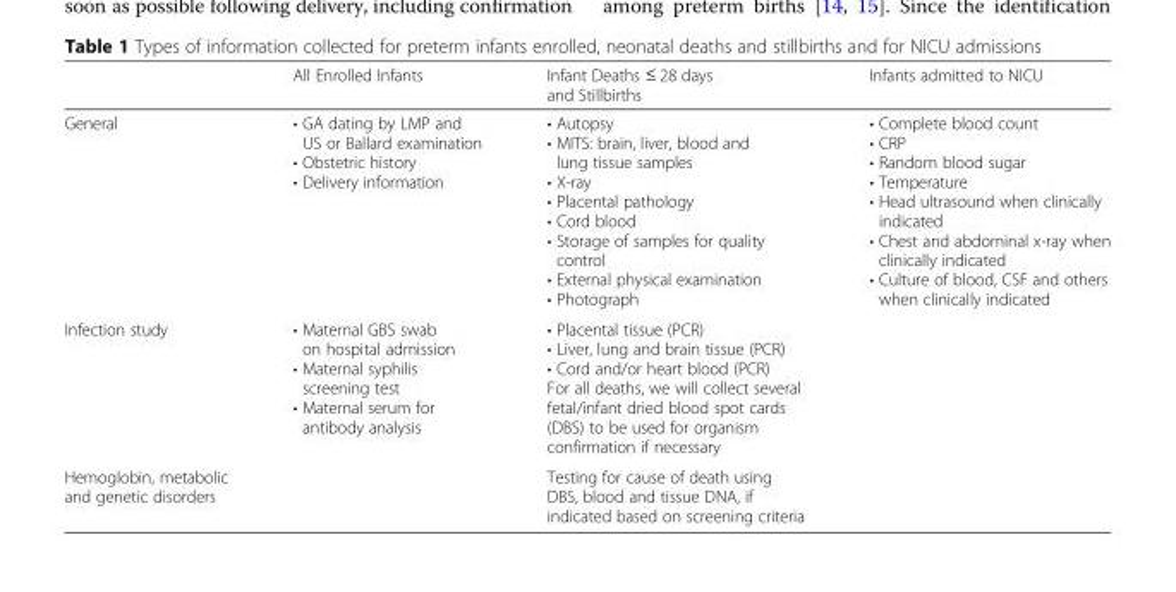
<table><thead><tr><td></td><td>All Enrolled Infants</td><td>Infant Deaths ≤ 28 days and Stillbirths</td><td>Infants admitted to NICU</td></tr></thead><tbody><tr><td>General</td><td>• GA dating by LMP and US or Ballard examination • Obstetric history • Delivery information</td><td>• Autopsy • MITS: brain, liver, blood and lung tissue samples • X-ray • Placental pathology • Cord blood • Storage of samples for quality control • External physical examination • Photograph</td><td>• Complete blood count • CRP • Random blood sugar • Temperature • Head ultrasound when clinically indicated • Chest and abdominal x-ray when clinically indicated • Culture of blood, CSF and others when clinically indicated</td></tr><tr><td>Infection study</td><td>• Maternal GBS swab on hospital admission • Maternal syphilis screening test • Maternal serum for antibody analysis</td><td>• Placental tissue (PCR) • Liver, lung and brain tissue (PCR) • Cord and/or heart blood (PCR) For all deaths, we will collect several fetal/infant dried blood spot cards (DBS) to be used for organism confirmation if necessary</td><td></td></tr><tr><td>Hemoglobin, metabolic and genetic disorders</td><td></td><td>Testing for cause of death using DBS, blood and tissue DNA, if indicated based on screening criteria</td><td></td></tr></tbody></table>